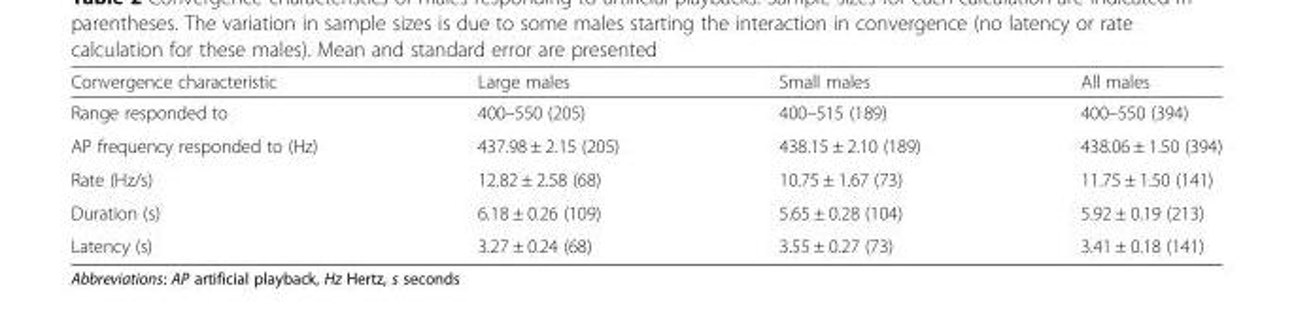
<table><thead><tr><td>Convergence characteristic</td><td>Large males</td><td>Small males</td><td>All males</td></tr></thead><tbody><tr><td>Range responded to</td><td>400–550 (205)</td><td>400–515 (189)</td><td>400–550 (394)</td></tr><tr><td>AP frequency responded to (Hz)</td><td>437.98 ± 2.15 (205)</td><td>438.15 ± 2.10 (189)</td><td>438.06 ± 1.50 (394)</td></tr><tr><td>Rate (Hz/s)</td><td>12.82 ± 2.58 (68)</td><td>10.75 ± 1.67 (73)</td><td>11.75 ± 1.50 (141)</td></tr><tr><td>Duration (s)</td><td>6.18 ± 0.26 (109)</td><td>5.65 ± 0.28 (104)</td><td>5.92 ± 0.19 (213)</td></tr><tr><td>Latency (s)</td><td>3.27 ± 0.24 (68)</td><td>3.55 ± 0.27 (73)</td><td>3.41 ± 0.18 (141)</td></tr></tbody></table>